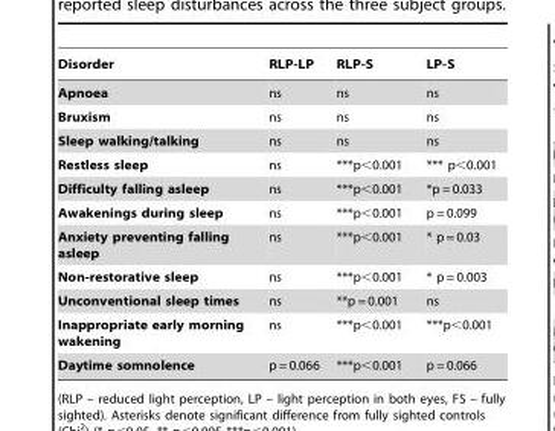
<table><thead><tr><td>Disorder</td><td>RLP-LP</td><td>RLP-S</td><td>LP-S</td></tr></thead><tbody><tr><td>Apnoea</td><td>ns</td><td>ns</td><td>ns</td></tr><tr><td>Bruxism</td><td>ns</td><td>ns</td><td>ns</td></tr><tr><td>Sleep walking/talking</td><td>ns</td><td>ns</td><td>ns</td></tr><tr><td>Restless sleep</td><td>ns</td><td>***p&lt;0.001</td><td>*** p&lt;0.001</td></tr><tr><td>Difficulty falling asleep</td><td>ns</td><td>***p&lt;0.001</td><td>*p = 0.033</td></tr><tr><td>Awakenings during sleep</td><td>ns</td><td>***p&lt;0.001</td><td>p = 0.099</td></tr><tr><td>Anxiety preventing falling asleep</td><td>ns</td><td>***p&lt;0.001</td><td>* p = 0.03</td></tr><tr><td>Non-restorative sleep</td><td>ns</td><td>***p&lt;0.001</td><td>* p = 0.003</td></tr><tr><td>Unconventional sleep times</td><td>ns</td><td>**p = 0.001</td><td>ns</td></tr><tr><td>Inappropriate early morning wakening</td><td>ns</td><td>***p&lt;0.001</td><td>***p&lt;0.001</td></tr><tr><td>Daytime somnolence</td><td>p = 0.066</td><td>***p&lt;0.001</td><td>p = 0.066</td></tr></tbody></table>